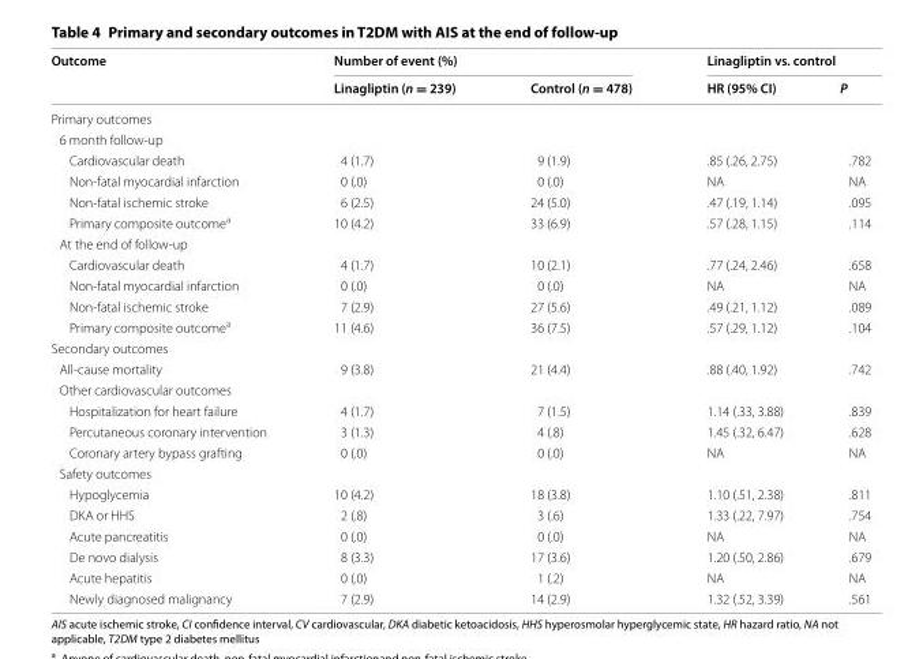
<table><thead><tr><td rowspan="2">Outcome</td><td colspan="2">Number of event (%)</td><td colspan="2">Linagliptin vs. control</td></tr><tr><td>Linagliptin (n = 239)</td><td>Control (n = 478)</td><td>HR (95% CI)</td><td>P</td></tr></thead><tbody><tr><td colspan="5">Primary outcomes</td></tr><tr><td colspan="5">6 month follow‑up</td></tr><tr><td>Cardiovascular death</td><td>4 (1.7)</td><td>9 (1.9)</td><td>.85 (.26, 2.75)</td><td>.782</td></tr><tr><td>Non‑fatal myocardial infarction</td><td>0 (.0)</td><td>0 (.0)</td><td>NA</td><td>NA</td></tr><tr><td>Non‑fatal ischemic stroke</td><td>6 (2.5)</td><td>24 (5.0)</td><td>.47 (.19, 1.14)</td><td>.095</td></tr><tr><td>Primary composite outcome<sup>a</sup></td><td>10 (4.2)</td><td>33 (6.9)</td><td>.57 (.28, 1.15)</td><td>.114</td></tr><tr><td colspan="5">At the end of follow‑up</td></tr><tr><td>Cardiovascular death</td><td>4 (1.7)</td><td>10 (2.1)</td><td>.77 (.24, 2.46)</td><td>.658</td></tr><tr><td>Non‑fatal myocardial infarction</td><td>0 (.0)</td><td>0 (.0)</td><td>NA</td><td>NA</td></tr><tr><td>Non‑fatal ischemic stroke</td><td>7 (2.9)</td><td>27 (5.6)</td><td>.49 (.21, 1.12)</td><td>.089</td></tr><tr><td>Primary composite outcome<sup>a</sup></td><td>11 (4.6)</td><td>36 (7.5)</td><td>.57 (.29, 1.12)</td><td>.104</td></tr><tr><td colspan="5">Secondary outcomes</td></tr><tr><td>All‑cause mortality</td><td>9 (3.8)</td><td>21 (4.4)</td><td>.88 (.40, 1.92)</td><td>.742</td></tr><tr><td colspan="5">Other cardiovascular outcomes</td></tr><tr><td>Hospitalization for heart failure</td><td>4 (1.7)</td><td>7 (1.5)</td><td>1.14 (.33, 3.88)</td><td>.839</td></tr><tr><td>Percutaneous coronary intervention</td><td>3 (1.3)</td><td>4 (.8)</td><td>1.45 (.32, 6.47)</td><td>.628</td></tr><tr><td>Coronary artery bypass grafting</td><td>0 (.0)</td><td>0 (.0)</td><td>NA</td><td>NA</td></tr><tr><td colspan="5">Safety outcomes</td></tr><tr><td>Hypoglycemia</td><td>10 (4.2)</td><td>18 (3.8)</td><td>1.10 (.51, 2.38)</td><td>.811</td></tr><tr><td>DKA or HHS</td><td>2 (.8)</td><td>3 (.6)</td><td>1.33 (.22, 7.97)</td><td>.754</td></tr><tr><td>Acute pancreatitis</td><td>0 (.0)</td><td>0 (.0)</td><td>NA</td><td>NA</td></tr><tr><td>De novo dialysis</td><td>8 (3.3)</td><td>17 (3.6)</td><td>1.20 (.50, 2.86)</td><td>.679</td></tr><tr><td>Acute hepatitis</td><td>0 (.0)</td><td>1 (.2)</td><td>NA</td><td>NA</td></tr><tr><td>Newly diagnosed malignancy</td><td>7 (2.9)</td><td>14 (2.9)</td><td>1.32 (.52, 3.39)</td><td>.561</td></tr></tbody></table>